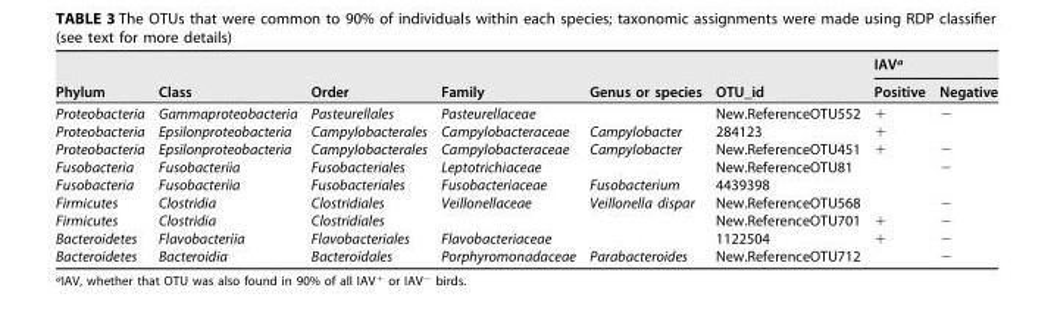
<table><thead><tr><td rowspan="2">Phylum</td><td rowspan="2">Class</td><td rowspan="2">Order</td><td rowspan="2">Family</td><td rowspan="2">Genus or species</td><td rowspan="2">OTU_id</td><td colspan="2">IAV<sup>a</sup></td></tr><tr><td>Positive</td><td>Negative</td></tr></thead><tbody><tr><td>Proteobacteria</td><td>Gammaproteobacteria</td><td>Pasteurellales</td><td>Pasteurellaceae</td><td></td><td>New.ReferenceOTU552</td><td>+</td><td>−</td></tr><tr><td>Proteobacteria</td><td>Epsilonproteobacteria</td><td>Campylobacterales</td><td>Campylobacteraceae</td><td>Campylobacter</td><td>284123</td><td>+</td><td></td></tr><tr><td>Proteobacteria</td><td>Epsilonproteobacteria</td><td>Campylobacterales</td><td>Campylobacteraceae</td><td>Campylobacter</td><td>New.ReferenceOTU451</td><td>+</td><td>−</td></tr><tr><td>Fusobacteria</td><td>Fusobacteriia</td><td>Fusobacteriales</td><td>Leptotrichiaceae</td><td></td><td>New.ReferenceOTU81</td><td></td><td>−</td></tr><tr><td>Fusobacteria</td><td>Fusobacteriia</td><td>Fusobacteriales</td><td>Fusobacteriaceae</td><td>Fusobacterium</td><td>4439398</td><td></td><td></td></tr><tr><td>Firmicutes</td><td>Clostridia</td><td>Clostridiales</td><td>Veillonellaceae</td><td>Veillonella dispar</td><td>New.ReferenceOTU568</td><td></td><td>−</td></tr><tr><td>Firmicutes</td><td>Clostridia</td><td>Clostridiales</td><td></td><td></td><td>New.ReferenceOTU701</td><td>+</td><td>−</td></tr><tr><td>Bacteroidetes</td><td>Flavobacteriia</td><td>Flavobacteriales</td><td>Flavobacteriaceae</td><td></td><td>1122504</td><td>+</td><td>−</td></tr><tr><td>Bacteroidetes</td><td>Bacteroidia</td><td>Bacteroidales</td><td>Porphyromonadaceae</td><td>Parabacteroides</td><td>New.ReferenceOTU712</td><td></td><td>−</td></tr></tbody></table>